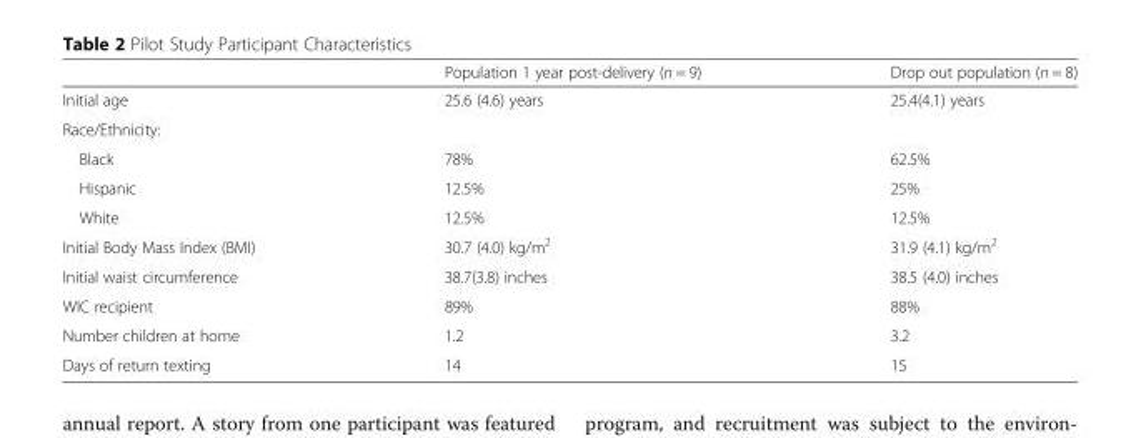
<table><thead><tr><td></td><td>Population 1 year post-delivery (n = 9)</td><td>Drop out population (n = 8)</td></tr></thead><tbody><tr><td>Initial age</td><td>25.6 (4.6) years</td><td>25.4(4.1) years</td></tr><tr><td colspan="3">Race/Ethnicity:</td></tr><tr><td>Black</td><td>78%</td><td>62.5%</td></tr><tr><td>Hispanic</td><td>12.5%</td><td>25%</td></tr><tr><td>White</td><td>12.5%</td><td>12.5%</td></tr><tr><td>Initial Body Mass Index (BMI)</td><td>30.7 (4.0) kg/m<sup>2</sup></td><td>31.9 (4.1) kg/m<sup>2</sup></td></tr><tr><td>Initial waist circumference</td><td>38.7(3.8) inches</td><td>38.5 (4.0) inches</td></tr><tr><td>WIC recipient</td><td>89%</td><td>88%</td></tr><tr><td>Number children at home</td><td>1.2</td><td>3.2</td></tr><tr><td>Days of return texting</td><td>14</td><td>15</td></tr></tbody></table>